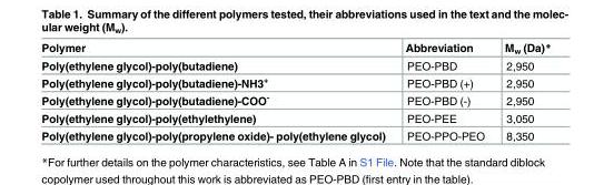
<table><thead><tr><td>Polymer</td><td>Abbreviation</td><td>M<sub>w</sub> (Da)*</td></tr></thead><tbody><tr><td>Poly(ethylene glycol)-poly(butadiene)</td><td>PEO-PBD</td><td>2,950</td></tr><tr><td>Poly(ethylene glycol)-poly(butadiene)-NH3<sup>+</sup></td><td>PEO-PBD (+)</td><td>2,950</td></tr><tr><td>Poly(ethylene glycol)-poly(butadiene)-COO<sup>-</sup></td><td>PEO-PBD (-)</td><td>2,950</td></tr><tr><td>Poly(ethylene glycol)-poly(ethylethylene)</td><td>PEO-PEE</td><td>3,050</td></tr><tr><td>Poly(ethylene glycol)-poly(propylene oxide)- poly(ethylene glycol)</td><td>PEO-PPO-PEO</td><td>8,350</td></tr></tbody></table>